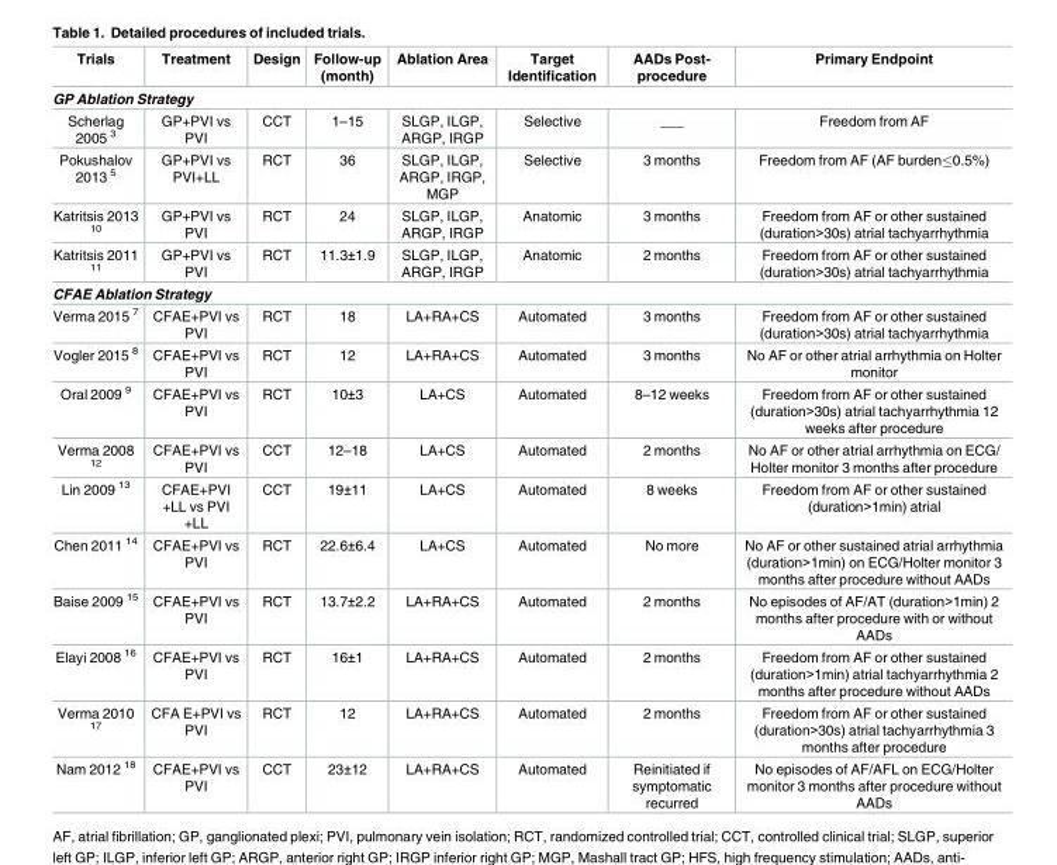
<table><thead><tr><td>Trials</td><td>Treatment</td><td>Design</td><td>Follow-up (month)</td><td>Ablation Area</td><td>Target Identification</td><td>AADs Post- procedure</td><td>Primary Endpoint</td></tr></thead><tbody><tr><td colspan="8">GP Ablation Strategy</td></tr><tr><td>Scherlag 2005 <sup>3</sup></td><td>GP+PVI vs PVI</td><td>CCT</td><td>1–15</td><td>SLGP, ILGP, ARGP, IRGP</td><td>Selective</td><td>___</td><td>Freedom from AF</td></tr><tr><td>Pokushalov 2013 <sup>5</sup></td><td>GP+PVI vs PVI+LL</td><td>RCT</td><td>36</td><td>SLGP, ILGP, ARGP, IRGP, MGP</td><td>Selective</td><td>3 months</td><td>Freedom from AF (AF burden≤0.5%)</td></tr><tr><td>Katritsis 2013 <sup>10</sup></td><td>GP+PVI vs PVI</td><td>RCT</td><td>24</td><td>SLGP, ILGP, ARGP, IRGP</td><td>Anatomic</td><td>3 months</td><td>Freedom from AF or other sustained (duration&gt;30s) atrial tachyarrhythmia</td></tr><tr><td>Katritsis 2011 <sup>11</sup></td><td>GP+PVI vs PVI</td><td>RCT</td><td>11.3±1.9</td><td>SLGP, ILGP, ARGP, IRGP</td><td>Anatomic</td><td>2 months</td><td>Freedom from AF or other sustained (duration&gt;30s) atrial tachyarrhythmia</td></tr><tr><td colspan="8">CFAE Ablation Strategy</td></tr><tr><td>Verma 2015 <sup>7</sup></td><td>CFAE+PVI vs PVI</td><td>RCT</td><td>18</td><td>LA+RA+CS</td><td>Automated</td><td>3 months</td><td>Freedom from AF or other sustained (duration&gt;30s) atrial tachyarrhythmia</td></tr><tr><td>Vogler 2015 <sup>8</sup></td><td>CFAE+PVI vs PVI</td><td>RCT</td><td>12</td><td>LA+RA+CS</td><td>Automated</td><td>3 months</td><td>No AF or other atrial arrhythmia on Holter monitor</td></tr><tr><td>Oral 2009 <sup>9</sup></td><td>CFAE+PVI vs PVI</td><td>RCT</td><td>10±3</td><td>LA+CS</td><td>Automated</td><td>8–12 weeks</td><td>Freedom from AF or other sustained (duration&gt;30s) atrial tachyarrhythmia 12 weeks after procedure</td></tr><tr><td>Verma 2008 <sup>12</sup></td><td>CFAE+PVI vs PVI</td><td>CCT</td><td>12–18</td><td>LA+CS</td><td>Automated</td><td>2 months</td><td>No AF or other atrial arrhythmia on ECG/ Holter monitor 3 months after procedure</td></tr><tr><td>Lin 2009 <sup>13</sup></td><td>CFAE+PVI +LL vs PVI +LL</td><td>CCT</td><td>19±11</td><td>LA+CS</td><td>Automated</td><td>8 weeks</td><td>Freedom from AF or other sustained (duration&gt;1min) atrial</td></tr><tr><td>Chen 2011 <sup>14</sup></td><td>CFAE+PVI vs PVI</td><td>RCT</td><td>22.6±6.4</td><td>LA+CS</td><td>Automated</td><td>No more</td><td>No AF or other sustained atrial arrhythmia (duration&gt;1min) on ECG/Holter monitor 3 months after procedure without AADs</td></tr><tr><td>Baise 2009 <sup>15</sup></td><td>CFAE+PVI vs PVI</td><td>RCT</td><td>13.7±2.2</td><td>LA+RA+CS</td><td>Automated</td><td>2 months</td><td>No episodes of AF/AT (duration&gt;1min) 2 months after procedure with or without AADs</td></tr><tr><td>Elayi 2008 <sup>16</sup></td><td>CFAE+PVI vs PVI</td><td>RCT</td><td>16±1</td><td>LA+RA+CS</td><td>Automated</td><td>2 months</td><td>Freedom from AF or other sustained (duration&gt;1min) atrial tachyarrhythmia 2 months after procedure without AADs</td></tr><tr><td>Verma 2010 <sup>17</sup></td><td>CFA E+PVI vs PVI</td><td>RCT</td><td>12</td><td>LA+RA+CS</td><td>Automated</td><td>2 months</td><td>Freedom from AF or other sustained (duration&gt;30s) atrial tachyarrhythmia 3 months after procedure</td></tr><tr><td>Nam 2012 <sup>18</sup></td><td>CFAE+PVI vs PVI</td><td>CCT</td><td>23±12</td><td>LA+RA+CS</td><td>Automated</td><td>Reinitiated if symptomatic recurred</td><td>No episodes of AF/AFL on ECG/Holter monitor 3 months after procedure without AADs</td></tr></tbody></table>